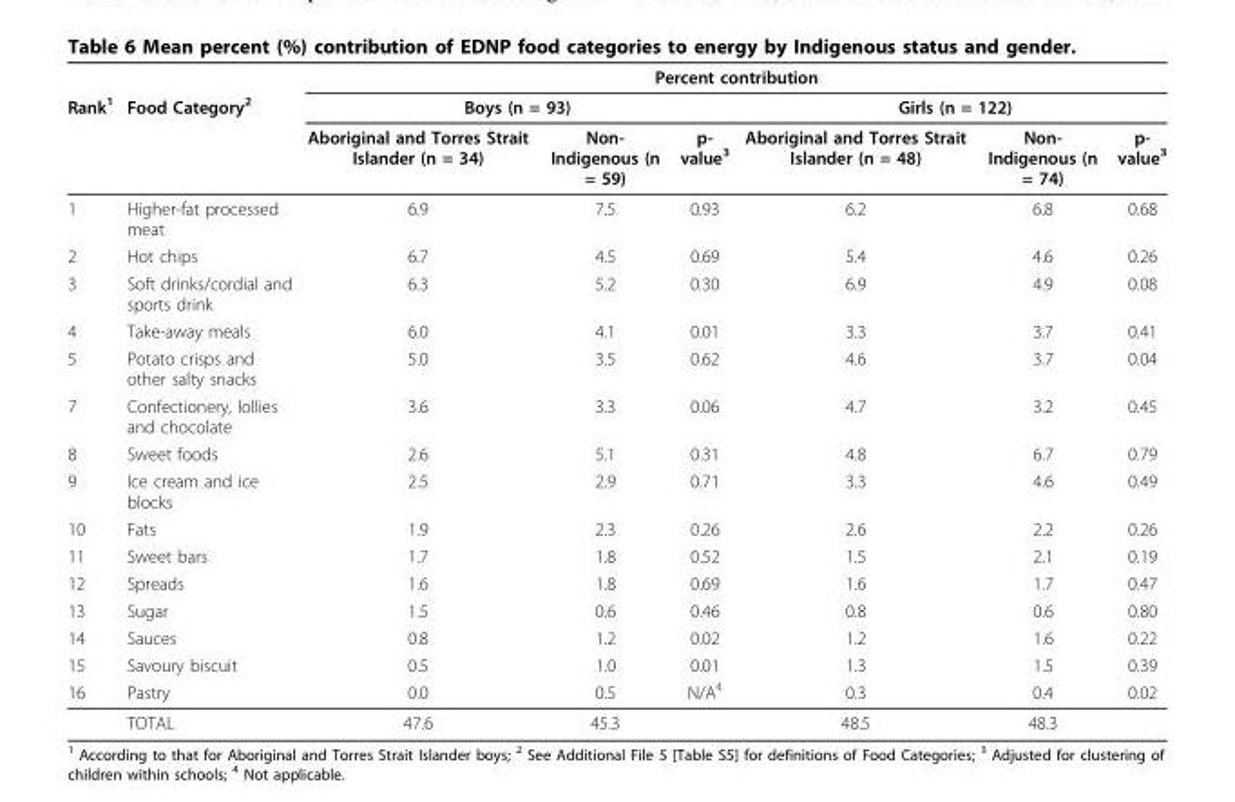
<table><thead><tr><td rowspan="3">Rank<sup>1</sup></td><td rowspan="3">Food Category<sup>2</sup></td><td colspan="6">Percent contribution</td></tr><tr><td colspan="3">Boys (n = 93)</td><td colspan="3">Girls (n = 122)</td></tr><tr><td>Aboriginal and Torres Strait Islander (n = 34)</td><td>Non- Indigenous (n = 59)</td><td>p- value<sup>3</sup></td><td>Aboriginal and Torres Strait Islander (n = 48)</td><td>Non- Indigenous (n = 74)</td><td>p- value<sup>3</sup></td></tr></thead><tbody><tr><td>1</td><td>Higher-fat processed meat</td><td>6.9</td><td>7.5</td><td>0.93</td><td>6.2</td><td>6.8</td><td>0.68</td></tr><tr><td>2</td><td>Hot chips</td><td>6.7</td><td>4.5</td><td>0.69</td><td>5.4</td><td>4.6</td><td>0.26</td></tr><tr><td>3</td><td>Soft drinks/cordial and sports drink</td><td>6.3</td><td>5.2</td><td>0.30</td><td>6.9</td><td>4.9</td><td>0.08</td></tr><tr><td>4</td><td>Take-away meals</td><td>6.0</td><td>4.1</td><td>0.01</td><td>3.3</td><td>3.7</td><td>0.41</td></tr><tr><td>5</td><td>Potato crisps and other salty snacks</td><td>5.0</td><td>3.5</td><td>0.62</td><td>4.6</td><td>3.7</td><td>0.04</td></tr><tr><td>7</td><td>Confectionery, lollies and chocolate</td><td>3.6</td><td>3.3</td><td>0.06</td><td>4.7</td><td>3.2</td><td>0.45</td></tr><tr><td>8</td><td>Sweet foods</td><td>2.6</td><td>5.1</td><td>0.31</td><td>4.8</td><td>6.7</td><td>0.79</td></tr><tr><td>9</td><td>Ice cream and ice blocks</td><td>2.5</td><td>2.9</td><td>0.71</td><td>3.3</td><td>4.6</td><td>0.49</td></tr><tr><td>10</td><td>Fats</td><td>1.9</td><td>2.3</td><td>0.26</td><td>2.6</td><td>2.2</td><td>0.26</td></tr><tr><td>11</td><td>Sweet bars</td><td>1.7</td><td>1.8</td><td>0.52</td><td>1.5</td><td>2.1</td><td>0.19</td></tr><tr><td>12</td><td>Spreads</td><td>1.6</td><td>1.8</td><td>0.69</td><td>1.6</td><td>1.7</td><td>0.47</td></tr><tr><td>13</td><td>Sugar</td><td>1.5</td><td>0.6</td><td>0.46</td><td>0.8</td><td>0.6</td><td>0.80</td></tr><tr><td>14</td><td>Sauces</td><td>0.8</td><td>1.2</td><td>0.02</td><td>1.2</td><td>1.6</td><td>0.22</td></tr><tr><td>15</td><td>Savoury biscuit</td><td>0.5</td><td>1.0</td><td>0.01</td><td>1.3</td><td>1.5</td><td>0.39</td></tr><tr><td rowspan="2">16</td><td>Pastry</td><td>0.0</td><td>0.5</td><td>N/A<sup>4</sup></td><td>0.3</td><td>0.4</td><td>0.02</td></tr><tr><td>TOTAL</td><td>47.6</td><td>45.3</td><td></td><td>48.5</td><td>48.3</td><td></td></tr></tbody></table>